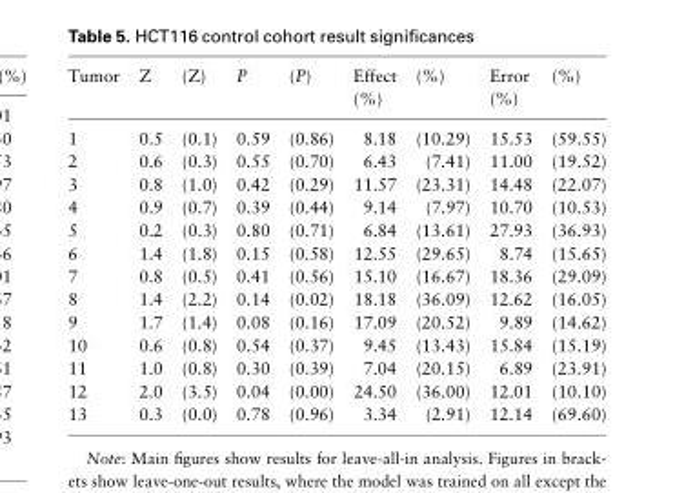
<table><thead><tr><td>Tumor</td><td>Z</td><td>(Z)</td><td>P</td><td>(P)</td><td>Effect (%)</td><td>(%)</td><td>Error (%)</td><td>(%)</td></tr></thead><tbody><tr><td>1</td><td>0.5</td><td>(0.1)</td><td>0.59</td><td>(0.86)</td><td>8.18</td><td>(10.29)</td><td>15.53</td><td>(59.55)</td></tr><tr><td>2</td><td>0.6</td><td>(0.3)</td><td>0.55</td><td>(0.70)</td><td>6.43</td><td>(7.41)</td><td>11.00</td><td>(19.52)</td></tr><tr><td>3</td><td>0.8</td><td>(1.0)</td><td>0.42</td><td>(0.29)</td><td>11.57</td><td>(23.31)</td><td>14.48</td><td>(22.07)</td></tr><tr><td>4</td><td>0.9</td><td>(0.7)</td><td>0.39</td><td>(0.44)</td><td>9.14</td><td>(7.97)</td><td>10.70</td><td>(10.53)</td></tr><tr><td>5</td><td>0.2</td><td>(0.3)</td><td>0.80</td><td>(0.71)</td><td>6.84</td><td>(13.61)</td><td>27.93</td><td>(36.93)</td></tr><tr><td>6</td><td>1.4</td><td>(1.8)</td><td>0.15</td><td>(0.58)</td><td>12.55</td><td>(29.65)</td><td>8.74</td><td>(15.65)</td></tr><tr><td>7</td><td>0.8</td><td>(0.5)</td><td>0.41</td><td>(0.56)</td><td>15.10</td><td>(16.67)</td><td>18.36</td><td>(29.09)</td></tr><tr><td>8</td><td>1.4</td><td>(2.2)</td><td>0.14</td><td>(0.02)</td><td>18.18</td><td>(36.09)</td><td>12.62</td><td>(16.05)</td></tr><tr><td>9</td><td>1.7</td><td>(1.4)</td><td>0.08</td><td>(0.16)</td><td>17.09</td><td>(20.52)</td><td>9.89</td><td>(14.62)</td></tr><tr><td>10</td><td>0.6</td><td>(0.8)</td><td>0.54</td><td>(0.37)</td><td>9.45</td><td>(13.43)</td><td>15.84</td><td>(15.19)</td></tr><tr><td>11</td><td>1.0</td><td>(0.8)</td><td>0.30</td><td>(0.39)</td><td>7.04</td><td>(20.15)</td><td>6.89</td><td>(23.91)</td></tr><tr><td>12</td><td>2.0</td><td>(3.5)</td><td>0.04</td><td>(0.00)</td><td>24.50</td><td>(36.00)</td><td>12.01</td><td>(10.10)</td></tr><tr><td>13</td><td>0.3</td><td>(0.0)</td><td>0.78</td><td>(0.96)</td><td>3.34</td><td>(2.91)</td><td>12.14</td><td>(69.60)</td></tr></tbody></table>